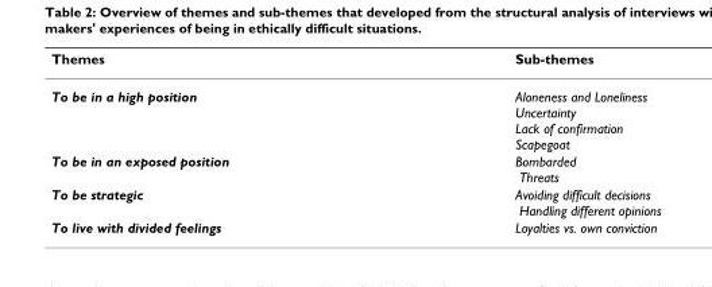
<table><thead><tr><td>Themes</td><td>Sub-themes</td></tr></thead><tbody><tr><td>To be in a high position</td><td>Aloneness and Loneliness Uncertainty Lack of confirmation Scapegoat</td></tr><tr><td>To be in an exposed position</td><td>Bombarded Threats</td></tr><tr><td>To be strategic</td><td>Avoiding difficult decisions Handling different opinions</td></tr><tr><td>To live with divided feelings</td><td>Loyalties vs. own conviction</td></tr></tbody></table>